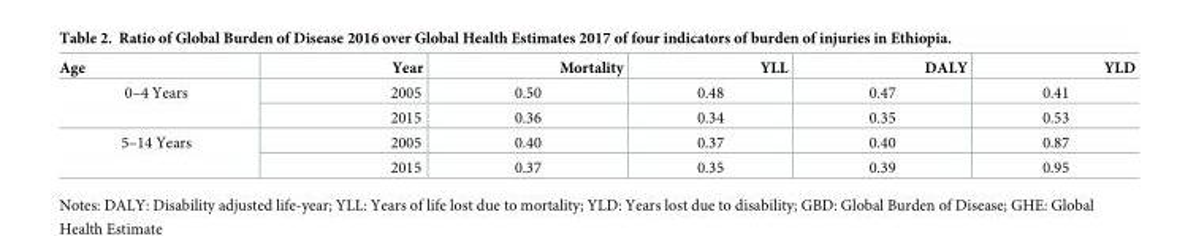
<table><thead><tr><td>Age</td><td>Year</td><td>Mortality</td><td>YLL</td><td>DALY</td><td>YLD</td></tr></thead><tbody><tr><td rowspan="2">0–4 Years</td><td>2005</td><td>0.50</td><td>0.48</td><td>0.47</td><td>0.41</td></tr><tr><td>2015</td><td>0.36</td><td>0.34</td><td>0.35</td><td>0.53</td></tr><tr><td rowspan="2">5–14 Years</td><td>2005</td><td>0.40</td><td>0.37</td><td>0.40</td><td>0.87</td></tr><tr><td>2015</td><td>0.37</td><td>0.35</td><td>0.39</td><td>0.95</td></tr></tbody></table>